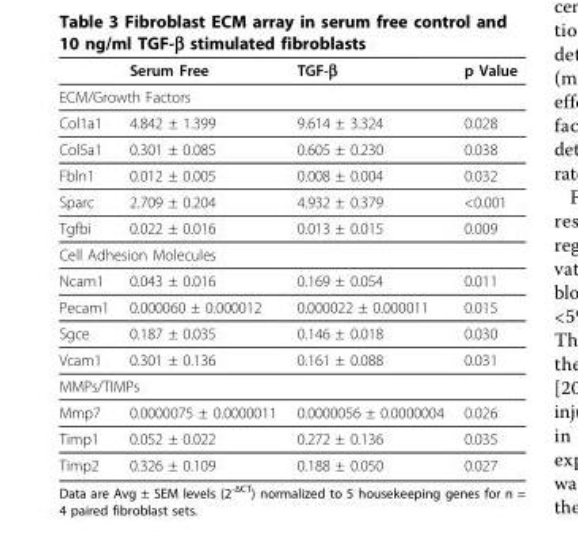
<table><thead><tr><td></td><td>Serum Free</td><td>TGF-β</td><td>p Value</td></tr></thead><tbody><tr><td colspan="4">ECM/Growth Factors</td></tr><tr><td>Col1a1</td><td>4.842 ± 1.399</td><td>9.614 ± 3.324</td><td>0.028</td></tr><tr><td>Col5a1</td><td>0.301 ± 0.085</td><td>0.605 ± 0.230</td><td>0.038</td></tr><tr><td>Fbln1</td><td>0.012 ± 0.005</td><td>0.008 ± 0.004</td><td>0.032</td></tr><tr><td>Sparc</td><td>2.709 ± 0.204</td><td>4.932 ± 0.379</td><td>&lt;0.001</td></tr><tr><td>Tgfbi</td><td>0.022 ± 0.016</td><td>0.013 ± 0.015</td><td>0.009</td></tr><tr><td colspan="4">Cell Adhesion Molecules</td></tr><tr><td>Ncam1</td><td>0.043 ± 0.016</td><td>0.169 ± 0.054</td><td>0.011</td></tr><tr><td>Pecam1</td><td>0.000060 ± 0.000012</td><td>0.000022 ± 0.000011</td><td>0.015</td></tr><tr><td>Sgce</td><td>0.187 ± 0.035</td><td>0.146 ± 0.018</td><td>0.030</td></tr><tr><td>Vcam1</td><td>0.301 ± 0.136</td><td>0.161 ± 0.088</td><td>0.031</td></tr><tr><td colspan="4">MMPs/TIMPs</td></tr><tr><td>Mmp7</td><td>0.0000075 ± 0.0000011</td><td>0.0000056 ± 0.0000004</td><td>0.026</td></tr><tr><td>Timp1</td><td>0.052 ± 0.022</td><td>0.272 ± 0.136</td><td>0.035</td></tr><tr><td>Timp2</td><td>0.326 ± 0.109</td><td>0.188 ± 0.050</td><td>0.027</td></tr></tbody></table>